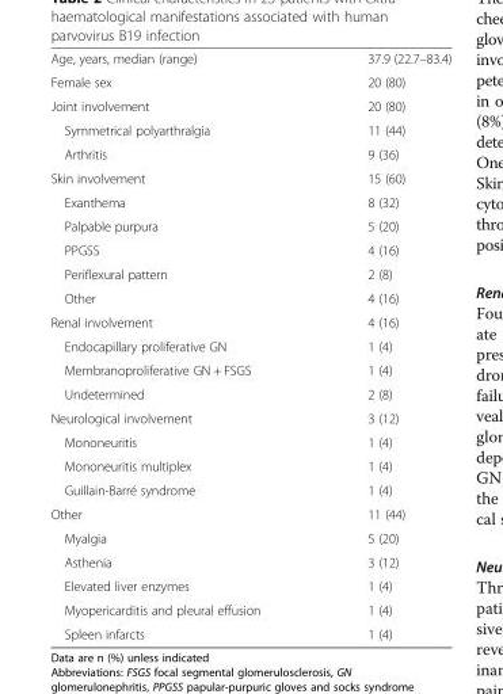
<table><tbody><tr><td>Age, years, median (range)</td><td>37.9 (22.7–83.4)</td></tr><tr><td>Female sex</td><td>20 (80)</td></tr><tr><td>Joint involvement</td><td>20 (80)</td></tr><tr><td>Symmetrical polyarthralgia</td><td>11 (44)</td></tr><tr><td>Arthritis</td><td>9 (36)</td></tr><tr><td>Skin involvement</td><td>15 (60)</td></tr><tr><td>Exanthema</td><td>8 (32)</td></tr><tr><td>Palpable purpura</td><td>5 (20)</td></tr><tr><td>PPGSS</td><td>4 (16)</td></tr><tr><td>Periflexural pattern</td><td>2 (8)</td></tr><tr><td>Other</td><td>4 (16)</td></tr><tr><td>Renal involvement</td><td>4 (16)</td></tr><tr><td>Endocapillary proliferative GN</td><td>1 (4)</td></tr><tr><td>Membranoproliferative GN + FSGS</td><td>1 (4)</td></tr><tr><td>Undetermined</td><td>2 (8)</td></tr><tr><td>Neurological involvement</td><td>3 (12)</td></tr><tr><td>Mononeuritis</td><td>1 (4)</td></tr><tr><td>Mononeuritis multiplex</td><td>1 (4)</td></tr><tr><td>Guillain-Barré syndrome</td><td>1 (4)</td></tr><tr><td>Other</td><td>11 (44)</td></tr><tr><td>Myalgia</td><td>5 (20)</td></tr><tr><td>Asthenia</td><td>3 (12)</td></tr><tr><td>Elevated liver enzymes</td><td>1 (4)</td></tr><tr><td>Myopericarditis and pleural effusion</td><td>1 (4)</td></tr><tr><td>Spleen infarcts</td><td>1 (4)</td></tr></tbody></table>